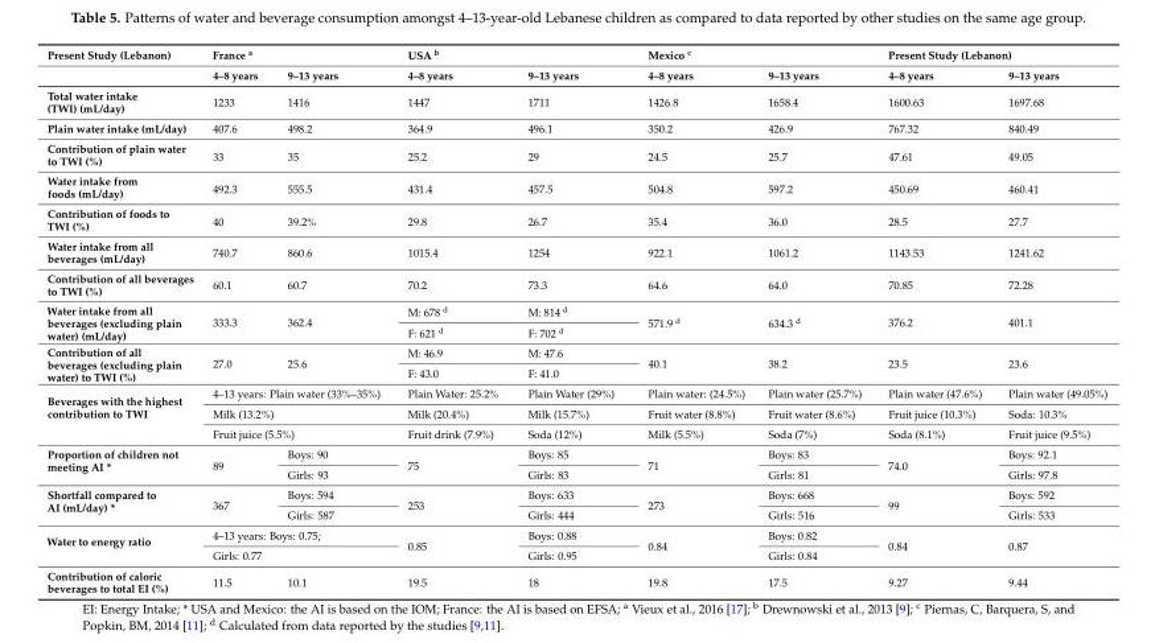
<table><thead><tr><td rowspan="2">Present Study (Lebanon)</td><td colspan="2">France <sup>a</sup></td><td colspan="2">USA <sup>b</sup></td><td colspan="2">Mexico <sup>c</sup></td><td colspan="2">Present Study (Lebanon)</td></tr><tr><td>4–8 years</td><td>9–13 years</td><td>4–8 years</td><td>9–13 years</td><td>4–8 years</td><td>9–13 years</td><td>4–8 years</td><td>9–13 years</td></tr></thead><tbody><tr><td>Total water intake (TWI) (mL/day)</td><td>1233</td><td>1416</td><td>1447</td><td>1711</td><td>1426.8</td><td>1658.4</td><td>1600.63</td><td>1697.68</td></tr><tr><td>Plain water intake (mL/day)</td><td>407.6</td><td>498.2</td><td>364.9</td><td>496.1</td><td>350.2</td><td>426.9</td><td>767.32</td><td>840.49</td></tr><tr><td>Contribution of plain water to TWI (%)</td><td>33</td><td>35</td><td>25.2</td><td>29</td><td>24.5</td><td>25.7</td><td>47.61</td><td>49.05</td></tr><tr><td>Water intake from foods (mL/day)</td><td>492.3</td><td>555.5</td><td>431.4</td><td>457.5</td><td>504.8</td><td>597.2</td><td>450.69</td><td>460.41</td></tr><tr><td>Contribution of foods to TWI (%)</td><td>40</td><td>39.2%</td><td>29.8</td><td>26.7</td><td>35.4</td><td>36.0</td><td>28.5</td><td>27.7</td></tr><tr><td>Water intake from all beverages (mL/day)</td><td>740.7</td><td>860.6</td><td>1015.4</td><td>1254</td><td>922.1</td><td>1061.2</td><td>1143.53</td><td>1241.62</td></tr><tr><td>Contribution of all beverages to TWI (%)</td><td>60.1</td><td>60.7</td><td>70.2</td><td>73.3</td><td>64.6</td><td>64.0</td><td>70.85</td><td>72.28</td></tr><tr><td rowspan="2">Water intake from all beverages (excluding plain water) (mL/day)</td><td rowspan="2">333.3</td><td rowspan="2">362.4</td><td>M: 678 <sup>d</sup></td><td>M: 814 <sup>d</sup></td><td rowspan="2">571.9 <sup>d</sup></td><td rowspan="2">634.3 <sup>d</sup></td><td rowspan="2">376.2</td><td rowspan="2">401.1</td></tr><tr><td>F: 621 <sup>d</sup></td><td>F: 702 <sup>d</sup></td></tr><tr><td rowspan="2">Contribution of all beverages (excluding plain water) to TWI (%)</td><td rowspan="2">27.0</td><td rowspan="2">25.6</td><td>M: 46.9</td><td>M: 47.6</td><td rowspan="2">40.1</td><td rowspan="2">38.2</td><td rowspan="2">23.5</td><td rowspan="2">23.6</td></tr><tr><td>F: 43.0</td><td>F: 41.0</td></tr><tr><td rowspan="3">Beverages with the highest contribution to TWI</td><td colspan="2">4–13 years: Plain water (33%–35%)</td><td>Plain Water: 25.2%</td><td>Plain Water (29%)</td><td>Plain water: (24.5%)</td><td>Plain water (25.7%)</td><td>Plain water (47.6%)</td><td>Plain water (49.05%)</td></tr><tr><td colspan="2">Milk (13.2%)</td><td>Milk (20.4%)</td><td>Milk (15.7%)</td><td>Fruit water (8.8%)</td><td>Fruit water (8.6%)</td><td>Fruit juice (10.3%)</td><td>Soda: 10.3%</td></tr><tr><td colspan="2">Fruit juice (5.5%)</td><td>Fruit drink (7.9%)</td><td>Soda (12%)</td><td>Milk (5.5%)</td><td>Soda (7%)</td><td>Soda (8.1%)</td><td>Fruit juice (9.5%)</td></tr><tr><td rowspan="2">Proportion of children not meeting AI *</td><td rowspan="2">89</td><td>Boys: 90</td><td rowspan="2">75</td><td>Boys: 85</td><td rowspan="2">71</td><td>Boys: 83</td><td rowspan="2">74.0</td><td>Boys: 92.1</td></tr><tr><td>Girls: 93</td><td>Girls: 83</td><td>Girls: 81</td><td>Girls: 97.8</td></tr><tr><td rowspan="2">Shortfall compared to AI (mL/day) *</td><td rowspan="2">367</td><td>Boys: 594</td><td rowspan="2">253</td><td>Boys: 633</td><td rowspan="2">273</td><td>Boys: 668</td><td rowspan="2">99</td><td>Boys: 592</td></tr><tr><td>Girls: 587</td><td>Girls: 444</td><td>Girls: 516</td><td>Girls: 533</td></tr><tr><td rowspan="2">Water to energy ratio</td><td colspan="2">4–13 years: Boys: 0.75;</td><td rowspan="2">0.85</td><td>Boys: 0.88</td><td rowspan="2">0.84</td><td>Boys: 0.82</td><td rowspan="2">0.84</td><td rowspan="2">0.87</td></tr><tr><td colspan="2">Girls: 0.77</td><td>Girls: 0.95</td><td>Girls: 0.84</td></tr><tr><td>Contribution of caloric beverages to total EI (%)</td><td>11.5</td><td>10.1</td><td>19.5</td><td>18</td><td>19.8</td><td>17.5</td><td>9.27</td><td>9.44</td></tr></tbody></table>